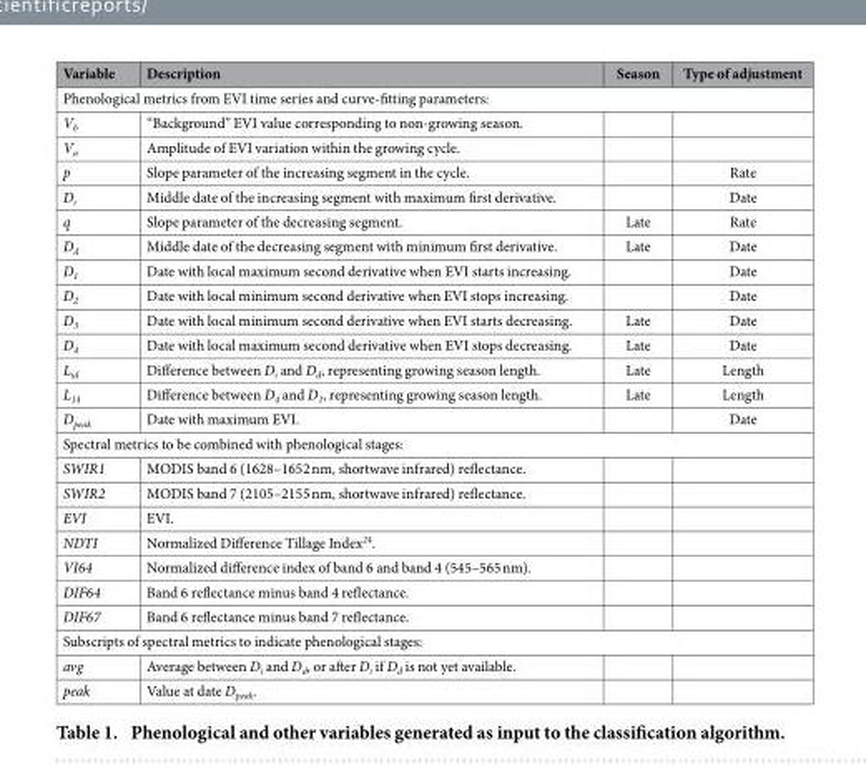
<table><thead><tr><td>Variable</td><td>Description</td><td>Season</td><td>Type of adjustment</td></tr></thead><tbody><tr><td colspan="4">Phenological metrics from EVI time series and curve-fitting parameters:</td></tr><tr><td>V<sub>b</sub></td><td>“Background” EVI value corresponding to non-growing season.</td><td></td><td></td></tr><tr><td>V<sub>a</sub></td><td>Amplitude of EVI variation within the growing cycle.</td><td></td><td></td></tr><tr><td>p</td><td>Slope parameter of the increasing segment in the cycle.</td><td></td><td>Rate</td></tr><tr><td>D<sub>i</sub></td><td>Middle date of the increasing segment with maximum first derivative.</td><td></td><td>Date</td></tr><tr><td>q</td><td>Slope parameter of the decreasing segment.</td><td>Late</td><td>Rate</td></tr><tr><td>D<sub>d</sub></td><td>Middle date of the decreasing segment with minimum first derivative.</td><td>Late</td><td>Date</td></tr><tr><td>D<sub>1</sub></td><td>Date with local maximum second derivative when EVI starts increasing.</td><td></td><td>Date</td></tr><tr><td>D<sub>2</sub></td><td>Date with local minimum second derivative when EVI stops increasing.</td><td></td><td>Date</td></tr><tr><td>D<sub>3</sub></td><td>Date with local minimum second derivative when EVI starts decreasing.</td><td>Late</td><td>Date</td></tr><tr><td>D<sub>4</sub></td><td>Date with local maximum second derivative when EVI stops decreasing.</td><td>Late</td><td>Date</td></tr><tr><td>L<sub>id</sub></td><td>Difference between D<sub>i</sub> and D<sub>d</sub>, representing growing season length.</td><td>Late</td><td>Length</td></tr><tr><td>L<sub>14</sub></td><td>Difference between D<sub>4</sub> and D<sub>1</sub>, representing growing season length.</td><td>Late</td><td>Length</td></tr><tr><td>D<sub>peak</sub></td><td>Date with maximum EVI.</td><td></td><td>Date</td></tr><tr><td colspan="4">Spectral metrics to be combined with phenological stages:</td></tr><tr><td>SWIR1</td><td>MODIS band 6 (1628–1652 nm, shortwave infrared) reflectance.</td><td></td><td></td></tr><tr><td>SWIR2</td><td>MODIS band 7 (2105–2155 nm, shortwave infrared) reflectance.</td><td></td><td></td></tr><tr><td>EVI</td><td>EVI.</td><td></td><td></td></tr><tr><td>NDTI</td><td>Normalized Difference Tillage Index<sup>24</sup>.</td><td></td><td></td></tr><tr><td>VI64</td><td>Normalized difference index of band 6 and band 4 (545–565 nm).</td><td></td><td></td></tr><tr><td>DIF64</td><td>Band 6 reflectance minus band 4 reflectance.</td><td></td><td></td></tr><tr><td>DIF67</td><td>Band 6 reflectance minus band 7 reflectance.</td><td></td><td></td></tr><tr><td colspan="4">Subscripts of spectral metrics to indicate phenological stages:</td></tr><tr><td>avg</td><td>Average between D<sub>i</sub> and D<sub>d</sub>, or after D<sub>i</sub> if D<sub>d</sub> is not yet available.</td><td></td><td></td></tr><tr><td>peak</td><td>Value at date D<sub>peak</sub>.</td><td></td><td></td></tr></tbody></table>